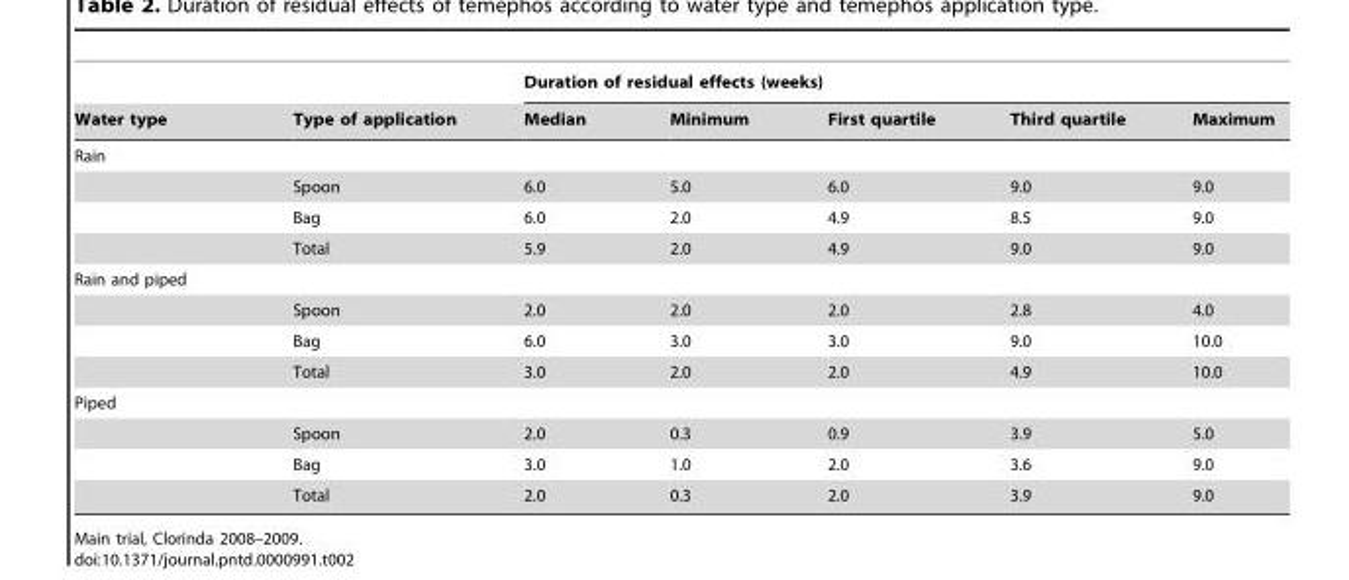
<table><thead><tr><td rowspan="2">Water type</td><td rowspan="2">Type of application</td><td colspan="5">Duration of residual effects (weeks)</td></tr><tr><td>Median</td><td>Minimum</td><td>First quartile</td><td>Third quartile</td><td>Maximum</td></tr></thead><tbody><tr><td colspan="7">Rain</td></tr><tr><td></td><td>Spoon</td><td>6.0</td><td>5.0</td><td>6.0</td><td>9.0</td><td>9.0</td></tr><tr><td></td><td>Bag</td><td>6.0</td><td>2.0</td><td>4.9</td><td>8.5</td><td>9.0</td></tr><tr><td></td><td>Total</td><td>5.9</td><td>2.0</td><td>4.9</td><td>9.0</td><td>9.0</td></tr><tr><td colspan="7">Rain and piped</td></tr><tr><td></td><td>Spoon</td><td>2.0</td><td>2.0</td><td>2.0</td><td>2.8</td><td>4.0</td></tr><tr><td></td><td>Bag</td><td>6.0</td><td>3.0</td><td>3.0</td><td>9.0</td><td>10.0</td></tr><tr><td></td><td>Total</td><td>3.0</td><td>2.0</td><td>2.0</td><td>4.9</td><td>10.0</td></tr><tr><td colspan="7">Piped</td></tr><tr><td></td><td>Spoon</td><td>2.0</td><td>0.3</td><td>0.9</td><td>3.9</td><td>5.0</td></tr><tr><td></td><td>Bag</td><td>3.0</td><td>1.0</td><td>2.0</td><td>3.6</td><td>9.0</td></tr><tr><td></td><td>Total</td><td>2.0</td><td>0.3</td><td>2.0</td><td>3.9</td><td>9.0</td></tr></tbody></table>